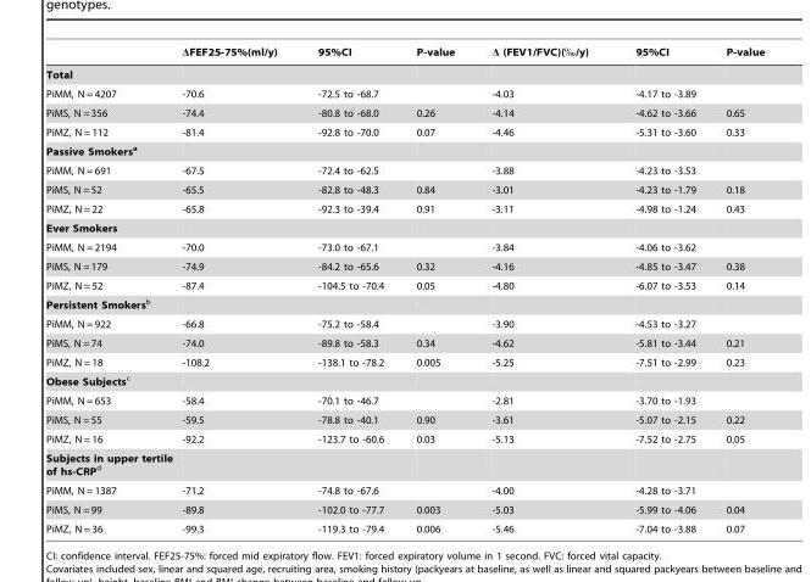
<table><thead><tr><td></td><td>ΔFEF25-75%(ml/y)</td><td>95%CI</td><td>P-value</td><td>Δ (FEV1/FVC)(‰/y)</td><td>95%CI</td><td>P-value</td></tr></thead><tbody><tr><td colspan="7">Total</td></tr><tr><td>PiMM, N = 4207</td><td>-70.6</td><td>-72.5 to -68.7</td><td></td><td>-4.03</td><td>-4.17 to -3.89</td><td></td></tr><tr><td>PiMS, N = 356</td><td>-74.4</td><td>-80.8 to -68.0</td><td>0.26</td><td>-4.14</td><td>-4.62 to -3.66</td><td>0.65</td></tr><tr><td>PiMZ, N = 112</td><td>-81.4</td><td>-92.8 to -70.0</td><td>0.07</td><td>-4.46</td><td>-5.31 to -3.60</td><td>0.33</td></tr><tr><td colspan="7">Passive Smokersa</td></tr><tr><td>PiMM, N = 691</td><td>-67.5</td><td>-72.4 to -62.5</td><td></td><td>-3.88</td><td>-4.23 to -3.53</td><td></td></tr><tr><td>PiMS, N = 52</td><td>-65.5</td><td>-82.8 to -48.3</td><td>0.84</td><td>-3.01</td><td>-4.23 to -1.79</td><td>0.18</td></tr><tr><td>PiMZ, N = 22</td><td>-65.8</td><td>-92.3 to -39.4</td><td>0.91</td><td>-3.11</td><td>-4.98 to -1.24</td><td>0.43</td></tr><tr><td colspan="7">Ever Smokers</td></tr><tr><td>PiMM, N = 2194</td><td>-70.0</td><td>-73.0 to -67.1</td><td></td><td>-3.84</td><td>-4.06 to -3.62</td><td></td></tr><tr><td>PiMS, N = 179</td><td>-74.9</td><td>-84.2 to -65.6</td><td>0.32</td><td>-4.16</td><td>-4.85 to -3.47</td><td>0.38</td></tr><tr><td>PiMZ, N = 52</td><td>-87.4</td><td>-104.5 to -70.4</td><td>0.05</td><td>-4.80</td><td>-6.07 to -3.53</td><td>0.14</td></tr><tr><td colspan="7">Persistent Smokersb</td></tr><tr><td>PiMM, N = 922</td><td>-66.8</td><td>-75.2 to -58.4</td><td></td><td>-3.90</td><td>-4.53 to -3.27</td><td></td></tr><tr><td>PiMS, N = 74</td><td>-74.0</td><td>-89.8 to -58.3</td><td>0.34</td><td>-4.62</td><td>-5.81 to -3.44</td><td>0.21</td></tr><tr><td>PiMZ, N = 18</td><td>-108.2</td><td>-138.1 to -78.2</td><td>0.005</td><td>-5.25</td><td>-7.51 to -2.99</td><td>0.23</td></tr><tr><td colspan="7">Obese Subjectsc</td></tr><tr><td>PiMM, N = 653</td><td>-58.4</td><td>-70.1 to -46.7</td><td></td><td>-2.81</td><td>-3.70 to -1.93</td><td></td></tr><tr><td>PiMS, N = 55</td><td>-59.5</td><td>-78.8 to -40.1</td><td>0.90</td><td>-3.61</td><td>-5.07 to -2.15</td><td>0.22</td></tr><tr><td>PiMZ, N = 16</td><td>-92.2</td><td>-123.7 to -60.6</td><td>0.03</td><td>-5.13</td><td>-7.52 to -2.75</td><td>0.05</td></tr><tr><td colspan="7">Subjects in upper tertile of hs-CRPd</td></tr><tr><td>PiMM, N = 1387</td><td>-71.2</td><td>-74.8 to -67.6</td><td></td><td>-4.00</td><td>-4.28 to -3.71</td><td></td></tr><tr><td>PiMS, N = 99</td><td>-89.8</td><td>-102.0 to -77.7</td><td>0.003</td><td>-5.03</td><td>-5.99 to -4.06</td><td>0.04</td></tr><tr><td>PiMZ, N = 36</td><td>-99.3</td><td>-119.3 to -79.4</td><td>0.006</td><td>-5.46</td><td>-7.04 to -3.88</td><td>0.07</td></tr></tbody></table>